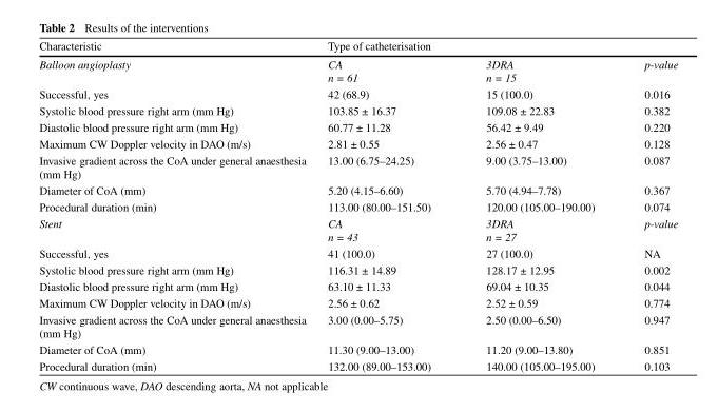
<table><thead><tr><td rowspan="2">Characteristic Balloon angioplasty</td><td colspan="2">Type of catheterisation</td><td rowspan="2">p-value</td></tr><tr><td>CA n = 61</td><td>3DRA n = 15</td></tr></thead><tbody><tr><td>Successful, yes</td><td>42 (68.9)</td><td>15 (100.0)</td><td>0.016</td></tr><tr><td>Systolic blood pressure right arm (mm Hg)</td><td>103.85 ± 16.37</td><td>109.08 ± 22.83</td><td>0.382</td></tr><tr><td>Diastolic blood pressure right arm (mm Hg)</td><td>60.77 ± 11.28</td><td>56.42 ± 9.49</td><td>0.220</td></tr><tr><td>Maximum CW Doppler velocity in DAO (m/s)</td><td>2.81 ± 0.55</td><td>2.56 ± 0.47</td><td>0.128</td></tr><tr><td>Invasive gradient across the CoA under general anaesthesia (mm Hg)</td><td>13.00 (6.75–24.25)</td><td>9.00 (3.75–13.00)</td><td>0.087</td></tr><tr><td>Diameter of CoA (mm)</td><td>5.20 (4.15–6.60)</td><td>5.70 (4.94–7.78)</td><td>0.367</td></tr><tr><td>Procedural duration (min)</td><td>113.00 (80.00–151.50)</td><td>120.00 (105.00–190.00)</td><td>0.074</td></tr><tr><td>Stent</td><td>CA n = 43</td><td>3DRA n = 27</td><td>p-value</td></tr><tr><td>Successful, yes</td><td>41 (100.0)</td><td>27 (100.0)</td><td>NA</td></tr><tr><td>Systolic blood pressure right arm (mm Hg)</td><td>116.31 ± 14.89</td><td>128.17 ± 12.95</td><td>0.002</td></tr><tr><td>Diastolic blood pressure right arm (mm Hg)</td><td>63.10 ± 11.33</td><td>69.04 ± 10.35</td><td>0.044</td></tr><tr><td>Maximum CW Doppler velocity in DAO (m/s)</td><td>2.56 ± 0.62</td><td>2.52 ± 0.59</td><td>0.774</td></tr><tr><td>Invasive gradient across the CoA under general anaesthesia (mm Hg)</td><td>3.00 (0.00–5.75)</td><td>2.50 (0.00–6.50)</td><td>0.947</td></tr><tr><td>Diameter of CoA (mm)</td><td>11.30 (9.00–13.00)</td><td>11.20 (9.00–13.80)</td><td>0.851</td></tr><tr><td>Procedural duration (min)</td><td>132.00 (89.00–153.00)</td><td>140.00 (105.00–195.00)</td><td>0.103</td></tr></tbody></table>